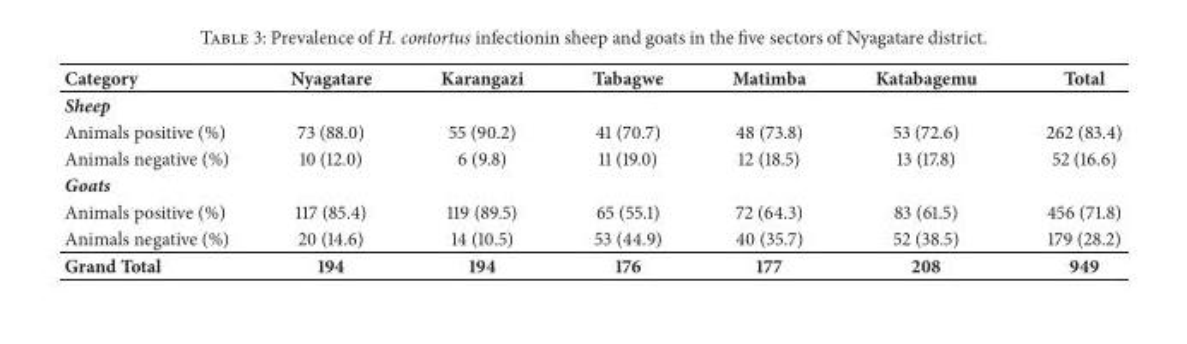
<table><thead><tr><td>Category</td><td>Nyagatare</td><td>Karangazi</td><td>Tabagwe</td><td>Matimba</td><td>Katabagemu</td><td>Total</td></tr></thead><tbody><tr><td colspan="7">Sheep</td></tr><tr><td>Animals positive (%)</td><td>73 (88.0)</td><td>55 (90.2)</td><td>41 (70.7)</td><td>48 (73.8)</td><td>53 (72.6)</td><td>262 (83.4)</td></tr><tr><td>Animals negative (%)</td><td>10 (12.0)</td><td>6 (9.8)</td><td>11 (19.0)</td><td>12 (18.5)</td><td>13 (17.8)</td><td>52 (16.6)</td></tr><tr><td colspan="7">Goats</td></tr><tr><td>Animals positive (%)</td><td>117 (85.4)</td><td>119 (89.5)</td><td>65 (55.1)</td><td>72 (64.3)</td><td>83 (61.5)</td><td>456 (71.8)</td></tr><tr><td>Animals negative (%)</td><td>20 (14.6)</td><td>14 (10.5)</td><td>53 (44.9)</td><td>40 (35.7)</td><td>52 (38.5)</td><td>179 (28.2)</td></tr><tr><td>Grand Total</td><td>194</td><td>194</td><td>176</td><td>177</td><td>208</td><td>949</td></tr></tbody></table>